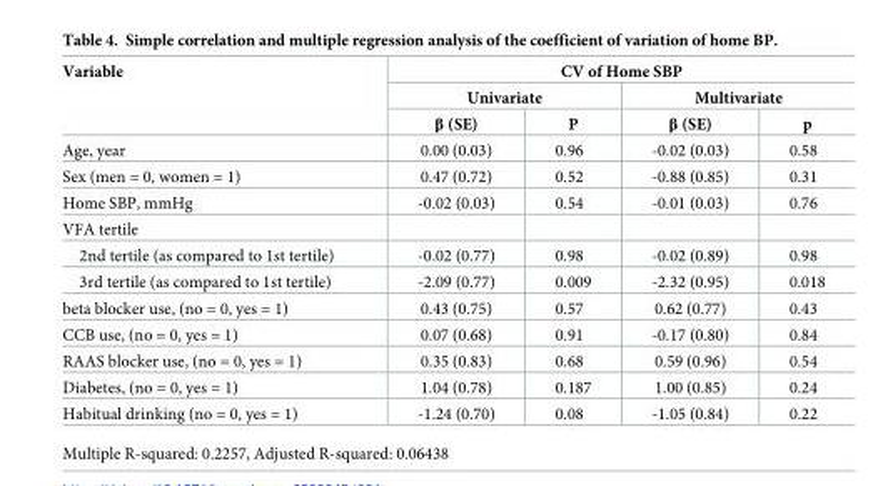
<table><thead><tr><td rowspan="3">Variable</td><td colspan="4">CV of Home SBP</td></tr><tr><td colspan="2">Univariate</td><td colspan="2">Multivariate</td></tr><tr><td>β (SE)</td><td>P</td><td>β (SE)</td><td>p</td></tr></thead><tbody><tr><td>Age, year</td><td>0.00 (0.03)</td><td>0.96</td><td>-0.02 (0.03)</td><td>0.58</td></tr><tr><td>Sex (men = 0, women = 1)</td><td>0.47 (0.72)</td><td>0.52</td><td>-0.88 (0.85)</td><td>0.31</td></tr><tr><td>Home SBP, mmHg</td><td>-0.02 (0.03)</td><td>0.54</td><td>-0.01 (0.03)</td><td>0.76</td></tr><tr><td colspan="5">VFA tertile</td></tr><tr><td>2nd tertile (as compared to 1st tertile)</td><td>-0.02 (0.77)</td><td>0.98</td><td>-0.02 (0.89)</td><td>0.98</td></tr><tr><td>3rd tertile (as compared to 1st tertile)</td><td>-2.09 (0.77)</td><td>0.009</td><td>-2.32 (0.95)</td><td>0.018</td></tr><tr><td>beta blocker use, (no = 0, yes = 1)</td><td>0.43 (0.75)</td><td>0.57</td><td>0.62 (0.77)</td><td>0.43</td></tr><tr><td>CCB use, (no = 0, yes = 1)</td><td>0.07 (0.68)</td><td>0.91</td><td>-0.17 (0.80)</td><td>0.84</td></tr><tr><td>RAAS blocker use, (no = 0, yes = 1)</td><td>0.35 (0.83)</td><td>0.68</td><td>0.59 (0.96)</td><td>0.54</td></tr><tr><td>Diabetes, (no = 0, yes = 1)</td><td>1.04 (0.78)</td><td>0.187</td><td>1.00 (0.85)</td><td>0.24</td></tr><tr><td>Habitual drinking (no = 0, yes = 1)</td><td>-1.24 (0.70)</td><td>0.08</td><td>-1.05 (0.84)</td><td>0.22</td></tr></tbody></table>